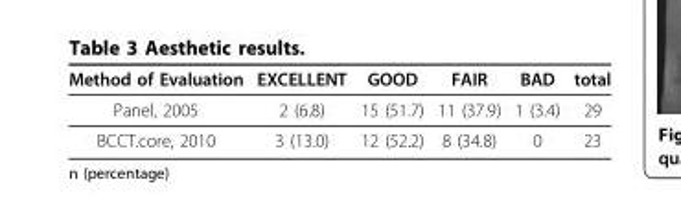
<table><thead><tr><td>Method of Evaluation</td><td>EXCELLENT</td><td>GOOD</td><td>FAIR</td><td>BAD</td><td>total</td></tr></thead><tbody><tr><td>Panel, 2005</td><td>2 (6.8)</td><td>15 (51.7)</td><td>11 (37.9)</td><td>1 (3.4)</td><td>29</td></tr><tr><td>BCCT.core, 2010</td><td>3 (13.0)</td><td>12 (52.2)</td><td>8 (34.8)</td><td>0</td><td>23</td></tr></tbody></table>